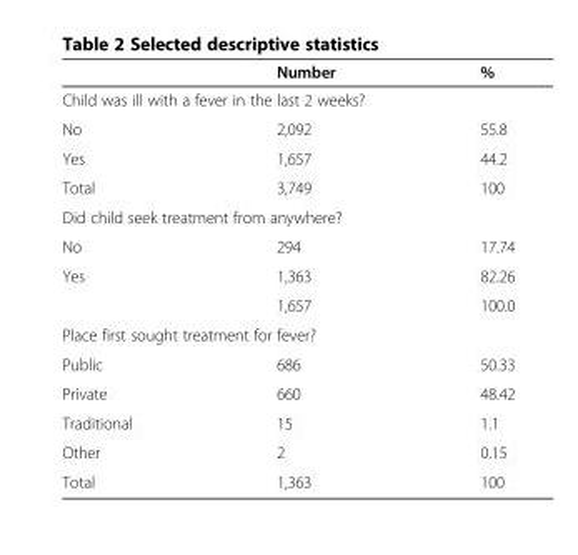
<table><thead><tr><td></td><td>Number</td><td>%</td></tr></thead><tbody><tr><td colspan="3">Child was ill with a fever in the last 2 weeks?</td></tr><tr><td>No</td><td>2,092</td><td>55.8</td></tr><tr><td>Yes</td><td>1,657</td><td>44.2</td></tr><tr><td>Total</td><td>3,749</td><td>100</td></tr><tr><td colspan="3">Did child seek treatment from anywhere?</td></tr><tr><td>No</td><td>294</td><td>17.74</td></tr><tr><td rowspan="2">Yes</td><td>1,363</td><td>82.26</td></tr><tr><td>1,657</td><td>100.0</td></tr><tr><td colspan="3">Place first sought treatment for fever?</td></tr><tr><td>Public</td><td>686</td><td>50.33</td></tr><tr><td>Private</td><td>660</td><td>48.42</td></tr><tr><td>Traditional</td><td>15</td><td>1.1</td></tr><tr><td>Other</td><td>2</td><td>0.15</td></tr><tr><td>Total</td><td>1,363</td><td>100</td></tr></tbody></table>